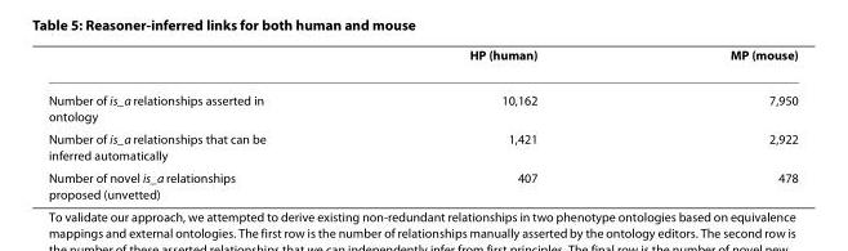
<table><thead><tr><td></td><td>HP (human)</td><td>MP (mouse)</td></tr></thead><tbody><tr><td>Number of is_a relationships asserted in ontology</td><td>10,162</td><td>7,950</td></tr><tr><td>Number of is_a relationships that can be inferred automatically</td><td>1,421</td><td>2,922</td></tr><tr><td>Number of novel is_a relationships proposed (unvetted)</td><td>407</td><td>478</td></tr></tbody></table>